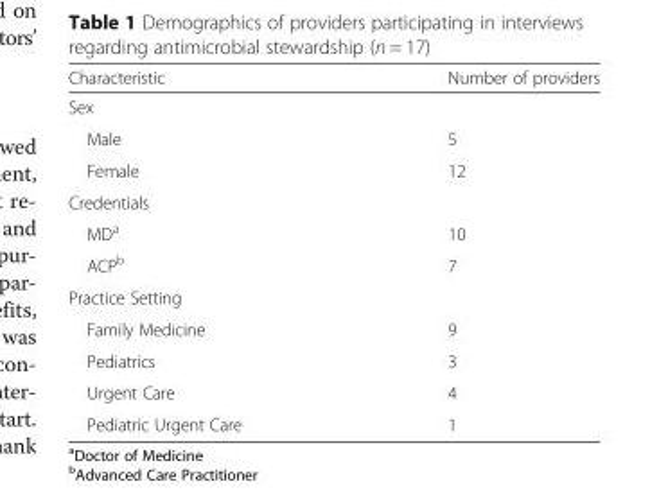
<table><thead><tr><td>Characteristic</td><td>Number of providers</td></tr></thead><tbody><tr><td colspan="2">Sex</td></tr><tr><td>Male</td><td>5</td></tr><tr><td>Female</td><td>12</td></tr><tr><td colspan="2">Credentials</td></tr><tr><td>MD<sup>a</sup></td><td>10</td></tr><tr><td>ACP<sup>b</sup></td><td>7</td></tr><tr><td colspan="2">Practice Setting</td></tr><tr><td>Family Medicine</td><td>9</td></tr><tr><td>Pediatrics</td><td>3</td></tr><tr><td>Urgent Care</td><td>4</td></tr><tr><td>Pediatric Urgent Care</td><td>1</td></tr></tbody></table>